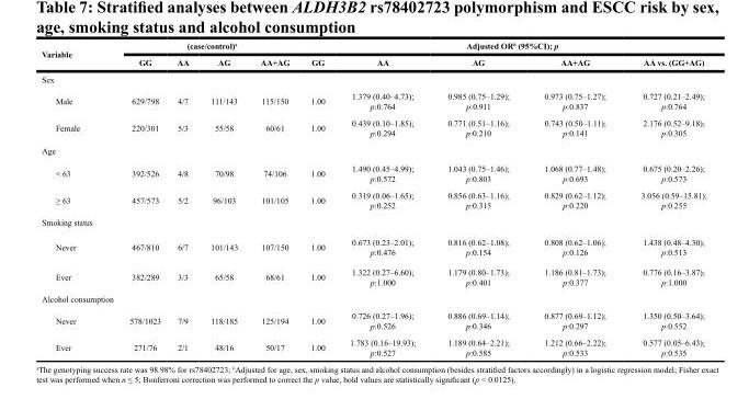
<table><thead><tr><td rowspan="2">Variable</td><td colspan="4">(case/control)<sup>a</sup></td><td colspan="5">Adjusted OR<sup>b</sup> (95%CI); p</td></tr><tr><td>GG</td><td>AA</td><td>AG</td><td>AA+AG</td><td>GG</td><td>AA</td><td>AG</td><td>AA+AG</td><td>AA vs. (GG+AG)</td></tr></thead><tbody><tr><td colspan="10">Sex</td></tr><tr><td>Male</td><td>629/798</td><td>4/7</td><td>111/143</td><td>115/150</td><td>1.00</td><td>1.379 (0.40–4.73); p:0.764</td><td>0.985 (0.75–1.29); p:0.911</td><td>0.973 (0.75–1.27); p:0.837</td><td>0.727 (0.21–2.49); p:0.764</td></tr><tr><td>Female</td><td>220/301</td><td>5/3</td><td>55/58</td><td>60/61</td><td>1.00</td><td>0.439 (0.10–1.85); p:0.294</td><td>0.771 (0.51–1.16); p:0.210</td><td>0.743 (0.50–1.11); p:0.141</td><td>2.176 (0.52–9.18); p:0.305</td></tr><tr><td colspan="10">Age</td></tr><tr><td>&lt; 63</td><td>392/526</td><td>4/8</td><td>70/98</td><td>74/106</td><td>1.00</td><td>1.490 (0.45–4.99); p:0.572</td><td>1.043 (0.75–1.46); p:0.803</td><td>1.068 (0.77–1.48); p:0.693</td><td>0.675 (0.20–2.26); p:0.573</td></tr><tr><td>≥ 63</td><td>457/573</td><td>5/2</td><td>96/103</td><td>101/105</td><td>1.00</td><td>0.319 (0.06–1.65); p:0.252</td><td>0.856 (0.63–1.16); p:0.315</td><td>0.829 (0.62–1.12); p:0.220</td><td>3.056 (0.59–15.81); p:0.255</td></tr><tr><td colspan="10">Smoking status</td></tr><tr><td>Never</td><td>467/810</td><td>6/7</td><td>101/143</td><td>107/150</td><td>1.00</td><td>0.673 (0.23–2.01); p:0.476</td><td>0.816 (0.62–1.08); p:0.154</td><td>0.808 (0.62–1.06); p:0.126</td><td>1.438 (0.48–4.30); p:0.513</td></tr><tr><td>Ever</td><td>382/289</td><td>3/3</td><td>65/58</td><td>68/61</td><td>1.00</td><td>1.322 (0.27–6.60); p:1.000</td><td>1.179 (0.80–1.73); p:0.401</td><td>1.186 (0.81–1.73); p:0.377</td><td>0.776 (0.16–3.87); p:1.000</td></tr><tr><td colspan="10">Alcohol consumption</td></tr><tr><td>Never</td><td>578/1023</td><td>7/9</td><td>118/185</td><td>125/194</td><td>1.00</td><td>0.726 (0.27–1.96); p:0.526</td><td>0.886 (0.69–1.14); p:0.346</td><td>0.877 (0.69–1.12); p:0.297</td><td>1.350 (0.50–3.64); p:0.552</td></tr><tr><td>Ever</td><td>271/76</td><td>2/1</td><td>48/16</td><td>50/17</td><td>1.00</td><td>1.783 (0.16–19.93); p:0.527</td><td>1.189 (0.64–2.21); p:0.585</td><td>1.212 (0.66–2.22); p:0.533</td><td>0.577 (0.05–6.43); p:0.535</td></tr></tbody></table>